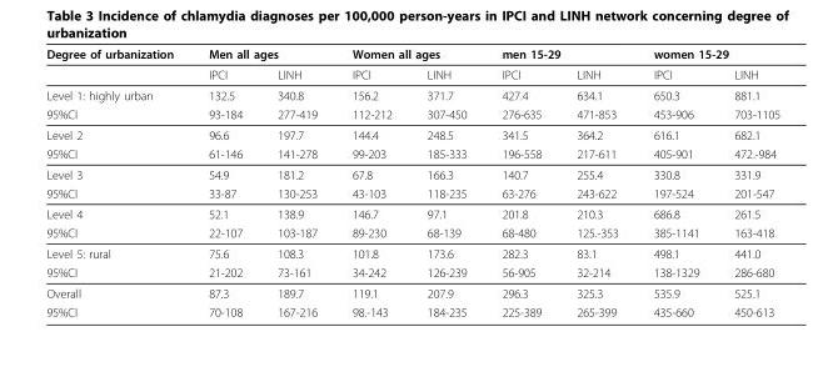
<table><thead><tr><td rowspan="2">Degree of urbanization</td><td colspan="2">Men all ages</td><td colspan="2">Women all ages</td><td colspan="2">men 15-29</td><td colspan="2">women 15-29</td></tr><tr><td>IPCI</td><td>LINH</td><td>IPCI</td><td>LINH</td><td>IPCI</td><td>LINH</td><td>IPCI</td><td>LINH</td></tr></thead><tbody><tr><td>Level 1: highly urban</td><td>132.5</td><td>340.8</td><td>156.2</td><td>371.7</td><td>427.4</td><td>634.1</td><td>650.3</td><td>881.1</td></tr><tr><td>95%CI</td><td>93-184</td><td>277-419</td><td>112-212</td><td>307-450</td><td>276-635</td><td>471-853</td><td>453-906</td><td>703-1105</td></tr><tr><td>Level 2</td><td>96.6</td><td>197.7</td><td>144.4</td><td>248.5</td><td>341.5</td><td>364.2</td><td>616.1</td><td>682.1</td></tr><tr><td>95%CI</td><td>61-146</td><td>141-278</td><td>99-203</td><td>185-333</td><td>196-558</td><td>217-611</td><td>405-901</td><td>472.-984</td></tr><tr><td>Level 3</td><td>54.9</td><td>181.2</td><td>67.8</td><td>166.3</td><td>140.7</td><td>255.4</td><td>330.8</td><td>331.9</td></tr><tr><td>95%CI</td><td>33-87</td><td>130-253</td><td>43-103</td><td>118-235</td><td>63-276</td><td>243-622</td><td>197-524</td><td>201-547</td></tr><tr><td>Level 4</td><td>52.1</td><td>138.9</td><td>146.7</td><td>97.1</td><td>201.8</td><td>210.3</td><td>686.8</td><td>261.5</td></tr><tr><td>95%CI</td><td>22-107</td><td>103-187</td><td>89-230</td><td>68-139</td><td>68-480</td><td>125.-353</td><td>385-1141</td><td>163-418</td></tr><tr><td>Level 5: rural</td><td>75.6</td><td>108.3</td><td>101.8</td><td>173.6</td><td>282.3</td><td>83.1</td><td>498.1</td><td>441.0</td></tr><tr><td>95%CI</td><td>21-202</td><td>73-161</td><td>34-242</td><td>126-239</td><td>56-905</td><td>32-214</td><td>138-1329</td><td>286-680</td></tr><tr><td>Overall</td><td>87.3</td><td>189.7</td><td>119.1</td><td>207.9</td><td>296.3</td><td>325.3</td><td>535.9</td><td>525.1</td></tr><tr><td>95%CI</td><td>70-108</td><td>167-216</td><td>98.-143</td><td>184-235</td><td>225-389</td><td>265-399</td><td>435-660</td><td>450-613</td></tr></tbody></table>